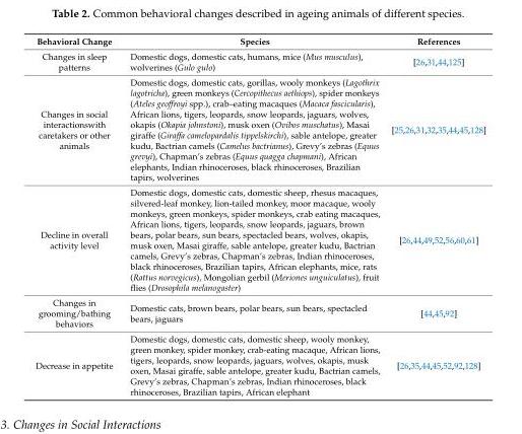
<table><thead><tr><td>Behavioral Change</td><td>Species</td><td>References</td></tr></thead><tbody><tr><td>Changes in sleep patterns</td><td>Domestic dogs, domestic cats, humans, mice (Mus musculus), wolverines (Gulo gulo)</td><td>[26,31,44,125]</td></tr><tr><td>Changes in social interactionswith caretakers or other animals</td><td>Domestic dogs, domestic cats, gorillas, wooly monkeys (Lagothrix lagotricha), green monkeys (Cercopithecus aethiops), spider monkeys (Ateles geoffroyi spp.), crab–eating macaques (Macaca fascicularis), African lions, tigers, leopards, snow leopards, jaguars, wolves, okapis (Okapia johnstoni), musk oxen (Ovibos muschatus), Masai giraffe (Giraffa camelopardalis tippelskirchi), sable antelope, greater kudu, Bactrian camels (Camelus bactrianus), Grevy’s zebras (Equus grevyi), Chapman’s zebras (Equus quagga chapmani), African elephants, Indian rhinoceroses, black rhinoceroses, Brazilian tapirs, wolverines</td><td>[25,26,31,32,35,44,45,128]</td></tr><tr><td>Decline in overall activity level</td><td>Domestic dogs, domestic cats, domestic sheep, rhesus macaques, silvered-leaf monkey, lion-tailed monkey, moor macaque, wooly monkeys, green monkeys, spider monkeys, crab eating macaques, African lions, tigers, leopards, snow leopards, jaguars, brown bears, polar bears, sun bears, spectacled bears, wolves, okapis, musk oxen, Masai giraffe, sable antelope, greater kudu, Bactrian camels, Grevy’s zebras, Chapman’s zebras, Indian rhinoceroses, black rhinoceroses, Brazilian tapirs, African elephants, mice, rats (Rattus norvegicus), Mongolian gerbil (Meriones unguiculatus), fruit flies (Drosophila melanogaster)</td><td>[26,44,49,52,56,60,61]</td></tr><tr><td>Changes in grooming/bathing behaviors</td><td>Domestic cats, brown bears, polar bears, sun bears, spectacled bears, jaguars</td><td>[44,45,92]</td></tr><tr><td>Decrease in appetite</td><td>Domestic dogs, domestic cats, domestic sheep, wooly monkey, green monkey, spider monkey, crab-eating macaque, African lions, tigers, leopards, snow leopards, jaguars, wolves, okapis, musk oxen, Masai giraffe, sable antelope, greater kudu, Bactrian camels, Grevy’s zebras, Chapman’s zebras, Indian rhinoceroses, black rhinoceroses, Brazilian tapirs, African elephant</td><td>[26,35,44,45,52,92,128]</td></tr></tbody></table>